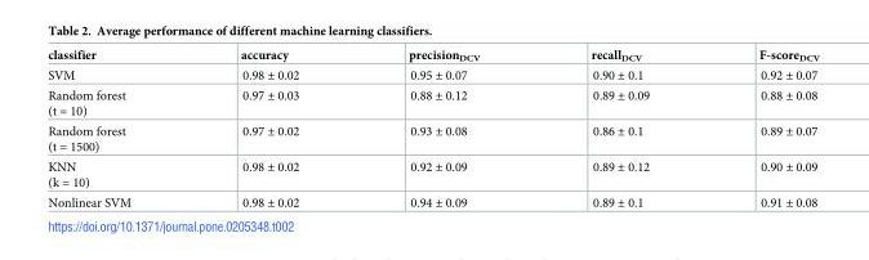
<table><thead><tr><td>classifier</td><td>accuracy</td><td>precision<sub>DCV</sub></td><td>recall<sub>DCV</sub></td><td>F-score<sub>DCV</sub></td></tr></thead><tbody><tr><td>SVM</td><td>0.98 ± 0.02</td><td>0.95 ± 0.07</td><td>0.90 ± 0.1</td><td>0.92 ± 0.07</td></tr><tr><td>Random forest (t = 10)</td><td>0.97 ± 0.03</td><td>0.88 ± 0.12</td><td>0.89 ± 0.09</td><td>0.88 ± 0.08</td></tr><tr><td>Random forest (t = 1500)</td><td>0.97 ± 0.02</td><td>0.93 ± 0.08</td><td>0.86 ± 0.1</td><td>0.89 ± 0.07</td></tr><tr><td>KNN (k = 10)</td><td>0.98 ± 0.02</td><td>0.92 ± 0.09</td><td>0.89 ± 0.12</td><td>0.90 ± 0.09</td></tr><tr><td>Nonlinear SVM</td><td>0.98 ± 0.02</td><td>0.94 ± 0.09</td><td>0.89 ± 0.1</td><td>0.91 ± 0.08</td></tr></tbody></table>